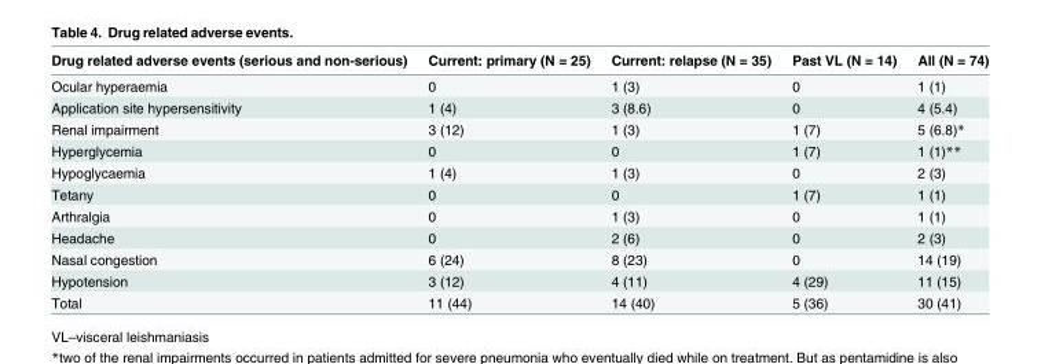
<table><thead><tr><td>Drug related adverse events (serious and non-serious)</td><td>Current: primary (N = 25)</td><td>Current: relapse (N = 35)</td><td>Past VL (N = 14)</td><td>All (N = 74)</td></tr></thead><tbody><tr><td>Ocular hyperaemia</td><td>0</td><td>1 (3)</td><td>0</td><td>1 (1)</td></tr><tr><td>Application site hypersensitivity</td><td>1 (4)</td><td>3 (8.6)</td><td>0</td><td>4 (5.4)</td></tr><tr><td>Renal impairment</td><td>3 (12)</td><td>1 (3)</td><td>1 (7)</td><td>5 (6.8)*</td></tr><tr><td>Hyperglycemia</td><td>0</td><td>0</td><td>1 (7)</td><td>1 (1)**</td></tr><tr><td>Hypoglycaemia</td><td>1 (4)</td><td>1 (3)</td><td>0</td><td>2 (3)</td></tr><tr><td>Tetany</td><td>0</td><td>0</td><td>1 (7)</td><td>1 (1)</td></tr><tr><td>Arthralgia</td><td>0</td><td>1 (3)</td><td>0</td><td>1 (1)</td></tr><tr><td>Headache</td><td>0</td><td>2 (6)</td><td>0</td><td>2 (3)</td></tr><tr><td>Nasal congestion</td><td>6 (24)</td><td>8 (23)</td><td>0</td><td>14 (19)</td></tr><tr><td>Hypotension</td><td>3 (12)</td><td>4 (11)</td><td>4 (29)</td><td>11 (15)</td></tr><tr><td>Total</td><td>11 (44)</td><td>14 (40)</td><td>5 (36)</td><td>30 (41)</td></tr></tbody></table>